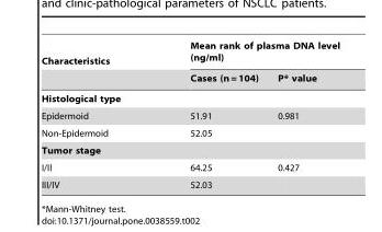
<table><thead><tr><td rowspan="2">Characteristics</td><td colspan="2">Mean rank of plasma DNA level (ng/ml)</td></tr><tr><td>Cases (n = 104)</td><td>P* value</td></tr></thead><tbody><tr><td colspan="3">Histological type</td></tr><tr><td>Epidermoid</td><td>51.91</td><td>0.981</td></tr><tr><td>Non-Epidermoid</td><td>52.05</td><td></td></tr><tr><td colspan="3">Tumor stage</td></tr><tr><td>I/II</td><td>64.25</td><td>0.427</td></tr><tr><td>III/IV</td><td>52.03</td><td></td></tr></tbody></table>